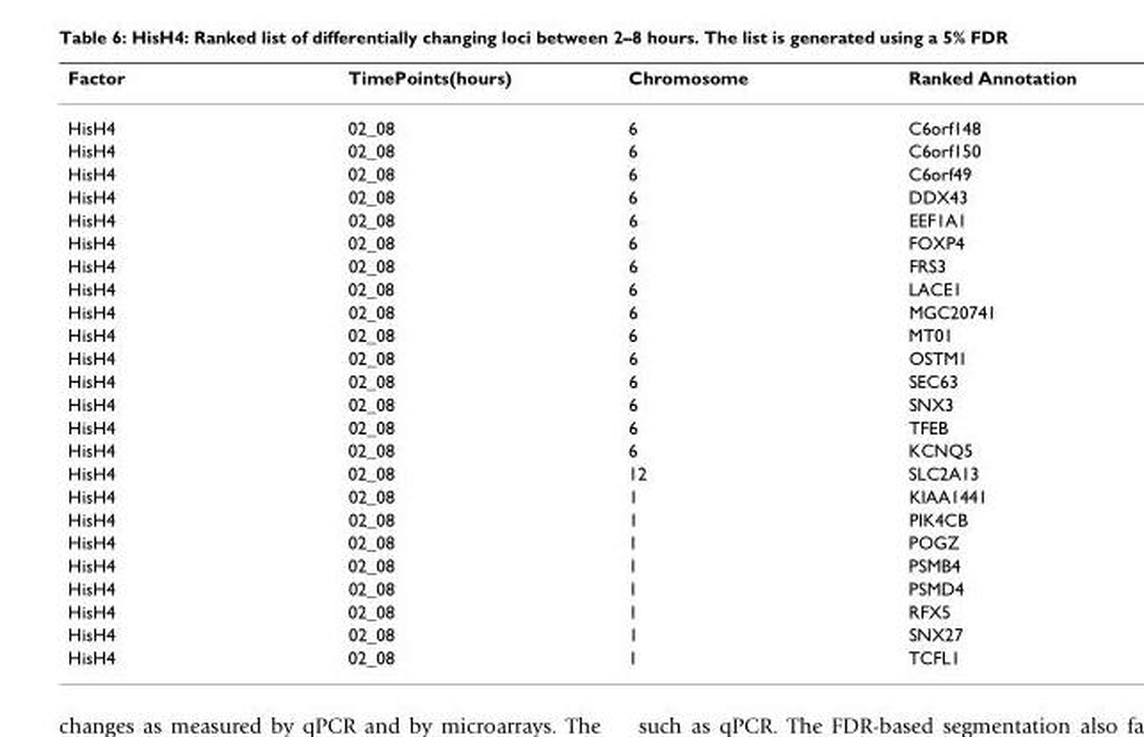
<table><thead><tr><td>Factor</td><td>TimePoints(hours)</td><td>Chromosome</td><td>Ranked Annotation</td></tr></thead><tbody><tr><td>HisH4</td><td>02_08</td><td>6</td><td>C6orf148</td></tr><tr><td>HisH4</td><td>02_08</td><td>6</td><td>C6orf150</td></tr><tr><td>HisH4</td><td>02_08</td><td>6</td><td>C6orf49</td></tr><tr><td>HisH4</td><td>02_08</td><td>6</td><td>DDX43</td></tr><tr><td>HisH4</td><td>02_08</td><td>6</td><td>EEF1A1</td></tr><tr><td>HisH4</td><td>02_08</td><td>6</td><td>FOXP4</td></tr><tr><td>HisH4</td><td>02_08</td><td>6</td><td>FRS3</td></tr><tr><td>HisH4</td><td>02_08</td><td>6</td><td>LACE1</td></tr><tr><td>HisH4</td><td>02_08</td><td>6</td><td>MGC20741</td></tr><tr><td>HisH4</td><td>02_08</td><td>6</td><td>MT01</td></tr><tr><td>HisH4</td><td>02_08</td><td>6</td><td>OSTM1</td></tr><tr><td>HisH4</td><td>02_08</td><td>6</td><td>SEC63</td></tr><tr><td>HisH4</td><td>02_08</td><td>6</td><td>SNX3</td></tr><tr><td>HisH4</td><td>02_08</td><td>6</td><td>TFEB</td></tr><tr><td>HisH4</td><td>02_08</td><td>6</td><td>KCNQ5</td></tr><tr><td>HisH4</td><td>02_08</td><td>12</td><td>SLC2A13</td></tr><tr><td>HisH4</td><td>02_08</td><td>1</td><td>KIAA1441</td></tr><tr><td>HisH4</td><td>02_08</td><td>1</td><td>PIK4CB</td></tr><tr><td>HisH4</td><td>02_08</td><td>1</td><td>POGZ</td></tr><tr><td>HisH4</td><td>02_08</td><td>1</td><td>PSMB4</td></tr><tr><td>HisH4</td><td>02_08</td><td>1</td><td>PSMD4</td></tr><tr><td>HisH4</td><td>02_08</td><td>1</td><td>RFX5</td></tr><tr><td>HisH4</td><td>02_08</td><td>1</td><td>SNX27</td></tr><tr><td>HisH4</td><td>02_08</td><td>1</td><td>TCFL1</td></tr></tbody></table>